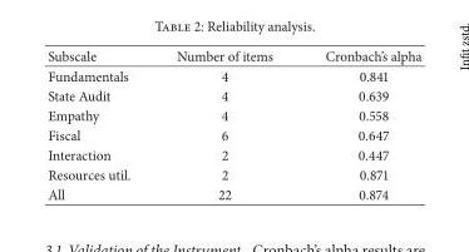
<table><thead><tr><td>Subscale</td><td>Number of items</td><td>Cronbach’s alpha</td></tr></thead><tbody><tr><td>Fundamentals</td><td>4</td><td>0.841</td></tr><tr><td>State Audit</td><td>4</td><td>0.639</td></tr><tr><td>Empathy</td><td>4</td><td>0.558</td></tr><tr><td>Fiscal</td><td>6</td><td>0.647</td></tr><tr><td>Interaction</td><td>2</td><td>0.447</td></tr><tr><td>Resources util.</td><td>2</td><td>0.871</td></tr><tr><td>All</td><td>22</td><td>0.874</td></tr></tbody></table>